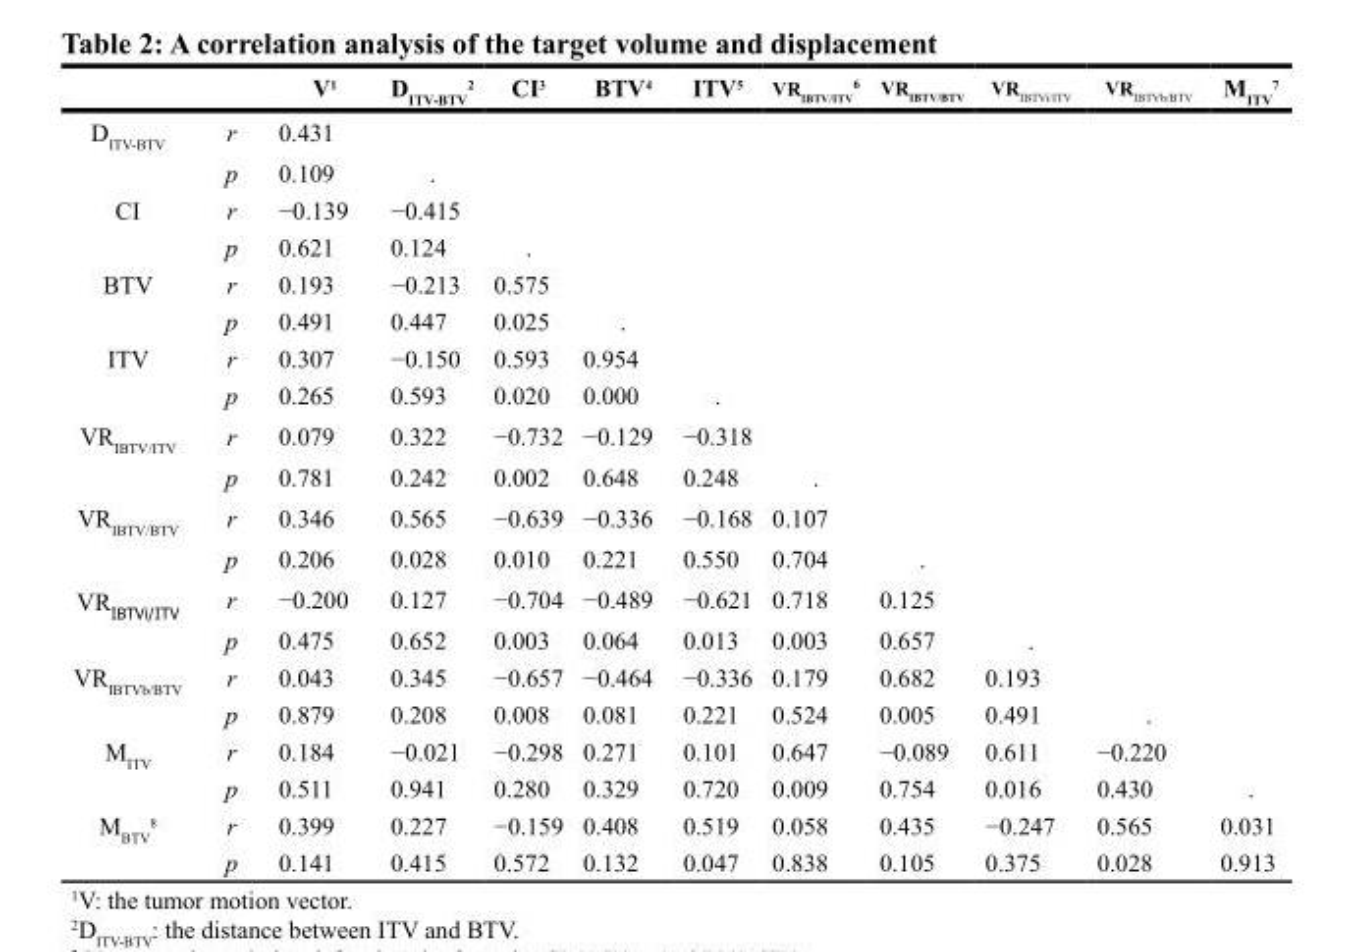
<table><thead><tr><td></td><td></td><td>V<sup>1</sup></td><td>D<sub>ITV-BTV</sub> <sup>2</sup></td><td>CI<sup>3</sup></td><td>BTV<sup>4</sup></td><td>ITV<sup>5</sup></td><td>VR<sub>IBTV/ITV</sub> <sup>6</sup></td><td>VR<sub>IBTV/BTV</sub></td><td>VR<sub>IBTVi/ITV</sub></td><td>VR<sub>IBTVb/BTV</sub></td><td>M<sub>ITV</sub> <sup>7</sup></td></tr></thead><tbody><tr><td rowspan="2">D<sub>ITV-BTV</sub></td><td>r</td><td>0.431</td><td></td><td></td><td></td><td></td><td></td><td></td><td></td><td></td><td></td></tr><tr><td>p</td><td>0.109</td><td>.</td><td></td><td></td><td></td><td></td><td></td><td></td><td></td><td></td></tr><tr><td rowspan="2">CI</td><td>r</td><td>−0.139</td><td>−0.415</td><td></td><td></td><td></td><td></td><td></td><td></td><td></td><td></td></tr><tr><td>p</td><td>0.621</td><td>0.124</td><td>.</td><td></td><td></td><td></td><td></td><td></td><td></td><td></td></tr><tr><td rowspan="2">BTV</td><td>r</td><td>0.193</td><td>−0.213</td><td>0.575</td><td></td><td></td><td></td><td></td><td></td><td></td><td></td></tr><tr><td>p</td><td>0.491</td><td>0.447</td><td>0.025</td><td>.</td><td></td><td></td><td></td><td></td><td></td><td></td></tr><tr><td rowspan="2">ITV</td><td>r</td><td>0.307</td><td>−0.150</td><td>0.593</td><td>0.954</td><td></td><td></td><td></td><td></td><td></td><td></td></tr><tr><td>p</td><td>0.265</td><td>0.593</td><td>0.020</td><td>0.000</td><td>.</td><td></td><td></td><td></td><td></td><td></td></tr><tr><td rowspan="2">VR<sub>IBTV/ITV</sub></td><td>r</td><td>0.079</td><td>0.322</td><td>−0.732</td><td>−0.129</td><td>−0.318</td><td></td><td></td><td></td><td></td><td></td></tr><tr><td>p</td><td>0.781</td><td>0.242</td><td>0.002</td><td>0.648</td><td>0.248</td><td>.</td><td></td><td></td><td></td><td></td></tr><tr><td rowspan="2">VR<sub>IBTV/BTV</sub></td><td>r</td><td>0.346</td><td>0.565</td><td>−0.639</td><td>−0.336</td><td>−0.168</td><td>0.107</td><td></td><td></td><td></td><td></td></tr><tr><td>p</td><td>0.206</td><td>0.028</td><td>0.010</td><td>0.221</td><td>0.550</td><td>0.704</td><td>.</td><td></td><td></td><td></td></tr><tr><td rowspan="2">VR<sub>IBTVi/ITV</sub></td><td>r</td><td>−0.200</td><td>0.127</td><td>−0.704</td><td>−0.489</td><td>−0.621</td><td>0.718</td><td>0.125</td><td></td><td></td><td></td></tr><tr><td>p</td><td>0.475</td><td>0.652</td><td>0.003</td><td>0.064</td><td>0.013</td><td>0.003</td><td>0.657</td><td>.</td><td></td><td></td></tr><tr><td rowspan="2">VR<sub>IBTVb/BTV</sub></td><td>r</td><td>0.043</td><td>0.345</td><td>−0.657</td><td>−0.464</td><td>−0.336</td><td>0.179</td><td>0.682</td><td>0.193</td><td></td><td></td></tr><tr><td>p</td><td>0.879</td><td>0.208</td><td>0.008</td><td>0.081</td><td>0.221</td><td>0.524</td><td>0.005</td><td>0.491</td><td>.</td><td></td></tr><tr><td rowspan="2">M<sub>ITV</sub></td><td>r</td><td>0.184</td><td>−0.021</td><td>−0.298</td><td>0.271</td><td>0.101</td><td>0.647</td><td>−0.089</td><td>0.611</td><td>−0.220</td><td></td></tr><tr><td>p</td><td>0.511</td><td>0.941</td><td>0.280</td><td>0.329</td><td>0.720</td><td>0.009</td><td>0.754</td><td>0.016</td><td>0.430</td><td>.</td></tr><tr><td rowspan="2">M<sub>BTV</sub> <sup>8</sup></td><td>r</td><td>0.399</td><td>0.227</td><td>−0.159</td><td>0.408</td><td>0.519</td><td>0.058</td><td>0.435</td><td>−0.247</td><td>0.565</td><td>0.031</td></tr><tr><td>p</td><td>0.141</td><td>0.415</td><td>0.572</td><td>0.132</td><td>0.047</td><td>0.838</td><td>0.105</td><td>0.375</td><td>0.028</td><td>0.913</td></tr></tbody></table>